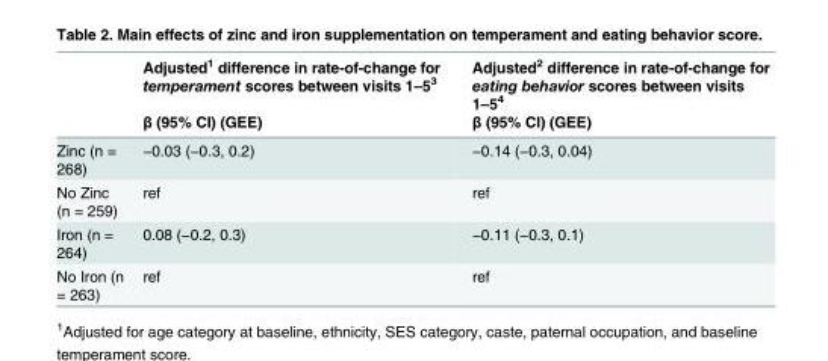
<table><thead><tr><td rowspan="2"></td><td rowspan="2">Adjusted<sup>1</sup> difference in rate-of-change for temperament scores between visits 1–5<sup>3</sup> β (95% CI) (GEE)</td><td rowspan="2">Adjusted<sup>2</sup> difference in rate-of-change for eating behavior scores between visits 1–5<sup>4</sup> β (95% CI) (GEE)</td></tr><tr></tr></thead><tbody><tr><td>Zinc (n = 268)</td><td>−0.03 (−0.3, 0.2)</td><td>−0.14 (−0.3, 0.04)</td></tr><tr><td>No Zinc (n = 259)</td><td>ref</td><td>ref</td></tr><tr><td>Iron (n = 264)</td><td>0.08 (−0.2, 0.3)</td><td>−0.11 (−0.3, 0.1)</td></tr><tr><td>No Iron (n = 263)</td><td>ref</td><td>ref</td></tr></tbody></table>